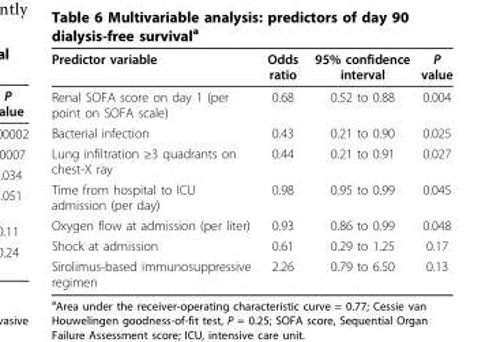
<table><thead><tr><td>Predictor variable</td><td>Odds ratio</td><td>95% confidence interval</td><td>P value</td></tr></thead><tbody><tr><td>Renal SOFA score on day 1 (per point on SOFA scale)</td><td>0.68</td><td>0.52 to 0.88</td><td>0.004</td></tr><tr><td>Bacterial infection</td><td>0.43</td><td>0.21 to 0.90</td><td>0.025</td></tr><tr><td>Lung infiltration ≥3 quadrants on chest-X ray</td><td>0.44</td><td>0.21 to 0.91</td><td>0.027</td></tr><tr><td>Time from hospital to ICU admission (per day)</td><td>0.98</td><td>0.95 to 0.99</td><td>0.045</td></tr><tr><td>Oxygen flow at admission (per liter)</td><td>0.93</td><td>0.86 to 0.99</td><td>0.048</td></tr><tr><td>Shock at admission</td><td>0.61</td><td>0.29 to 1.25</td><td>0.17</td></tr><tr><td>Sirolimus-based immunosuppressive regimen</td><td>2.26</td><td>0.79 to 6.50</td><td>0.13</td></tr></tbody></table>